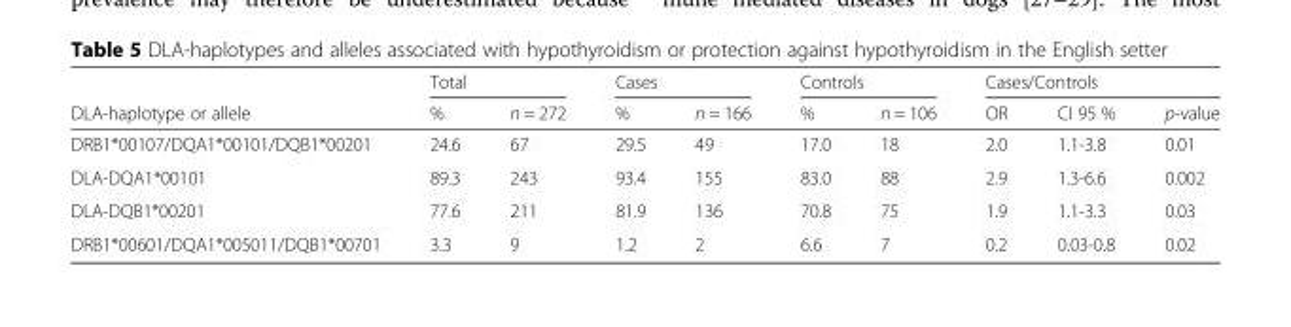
<table><thead><tr><td rowspan="2">DLA-haplotype or allele</td><td colspan="2">Total</td><td colspan="2">Cases</td><td colspan="2">Controls</td><td colspan="3">Cases/Controls</td></tr><tr><td>%</td><td>n = 272</td><td>%</td><td>n = 166</td><td>%</td><td>n = 106</td><td>OR</td><td>CI 95 %</td><td>p-value</td></tr></thead><tbody><tr><td>DRB1*00107/DQA1*00101/DQB1*00201</td><td>24.6</td><td>67</td><td>29.5</td><td>49</td><td>17.0</td><td>18</td><td>2.0</td><td>1.1-3.8</td><td>0.01</td></tr><tr><td>DLA-DQA1*00101</td><td>89.3</td><td>243</td><td>93.4</td><td>155</td><td>83.0</td><td>88</td><td>2.9</td><td>1.3-6.6</td><td>0.002</td></tr><tr><td>DLA-DQB1*00201</td><td>77.6</td><td>211</td><td>81.9</td><td>136</td><td>70.8</td><td>75</td><td>1.9</td><td>1.1-3.3</td><td>0.03</td></tr><tr><td>DRB1*00601/DQA1*005011/DQB1*00701</td><td>3.3</td><td>9</td><td>1.2</td><td>2</td><td>6.6</td><td>7</td><td>0.2</td><td>0.03-0.8</td><td>0.02</td></tr></tbody></table>